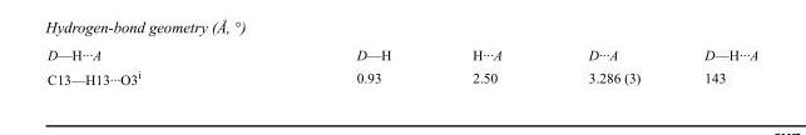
<table><tbody><tr><td>D—H···A</td><td>D—H</td><td>H···A</td><td>D···A</td><td>D—H···A</td></tr><tr><td>C13—H13···O3<sup>i</sup></td><td>0.93</td><td>2.50</td><td>3.286 (3)</td><td>143</td></tr></tbody></table>